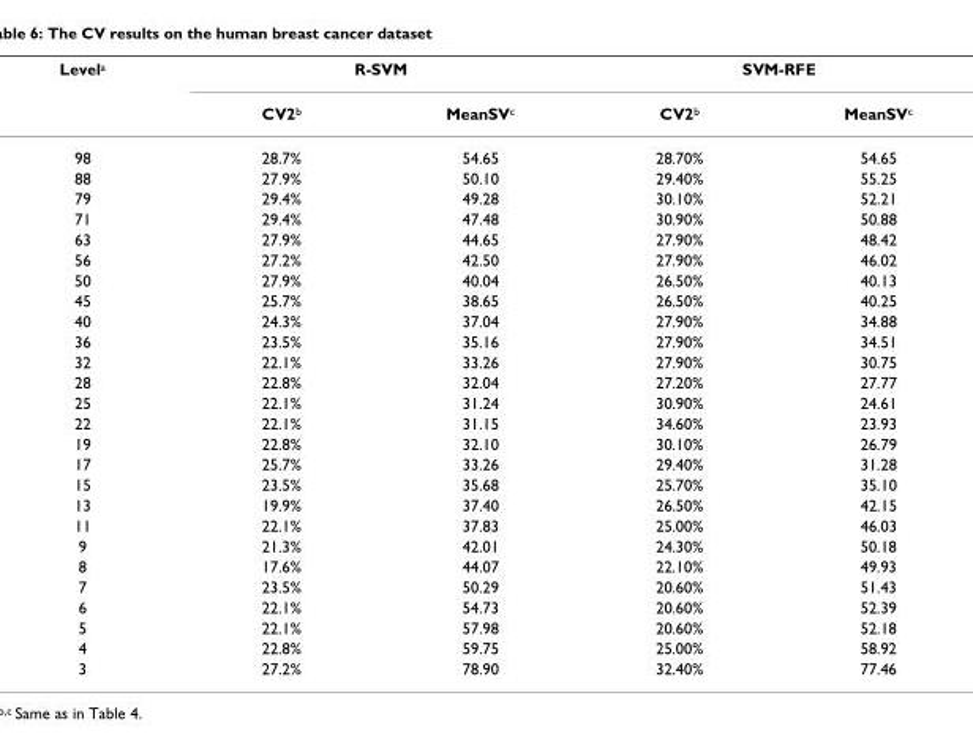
<table><thead><tr><td rowspan="2">Levela</td><td colspan="2">R-SVM</td><td colspan="2">SVM-RFE</td></tr><tr><td>CV2b</td><td>MeanSVc</td><td>CV2b</td><td>MeanSVc</td></tr></thead><tbody><tr><td>98</td><td>28.7%</td><td>54.65</td><td>28.70%</td><td>54.65</td></tr><tr><td>88</td><td>27.9%</td><td>50.10</td><td>29.40%</td><td>55.25</td></tr><tr><td>79</td><td>29.4%</td><td>49.28</td><td>30.10%</td><td>52.21</td></tr><tr><td>71</td><td>29.4%</td><td>47.48</td><td>30.90%</td><td>50.88</td></tr><tr><td>63</td><td>27.9%</td><td>44.65</td><td>27.90%</td><td>48.42</td></tr><tr><td>56</td><td>27.2%</td><td>42.50</td><td>27.90%</td><td>46.02</td></tr><tr><td>50</td><td>27.9%</td><td>40.04</td><td>26.50%</td><td>40.13</td></tr><tr><td>45</td><td>25.7%</td><td>38.65</td><td>26.50%</td><td>40.25</td></tr><tr><td>40</td><td>24.3%</td><td>37.04</td><td>27.90%</td><td>34.88</td></tr><tr><td>36</td><td>23.5%</td><td>35.16</td><td>27.90%</td><td>34.51</td></tr><tr><td>32</td><td>22.1%</td><td>33.26</td><td>27.90%</td><td>30.75</td></tr><tr><td>28</td><td>22.8%</td><td>32.04</td><td>27.20%</td><td>27.77</td></tr><tr><td>25</td><td>22.1%</td><td>31.24</td><td>30.90%</td><td>24.61</td></tr><tr><td>22</td><td>22.1%</td><td>31.15</td><td>34.60%</td><td>23.93</td></tr><tr><td>19</td><td>22.8%</td><td>32.10</td><td>30.10%</td><td>26.79</td></tr><tr><td>17</td><td>25.7%</td><td>33.26</td><td>29.40%</td><td>31.28</td></tr><tr><td>15</td><td>23.5%</td><td>35.68</td><td>25.70%</td><td>35.10</td></tr><tr><td>13</td><td>19.9%</td><td>37.40</td><td>26.50%</td><td>42.15</td></tr><tr><td>11</td><td>22.1%</td><td>37.83</td><td>25.00%</td><td>46.03</td></tr><tr><td>9</td><td>21.3%</td><td>42.01</td><td>24.30%</td><td>50.18</td></tr><tr><td>8</td><td>17.6%</td><td>44.07</td><td>22.10%</td><td>49.93</td></tr><tr><td>7</td><td>23.5%</td><td>50.29</td><td>20.60%</td><td>51.43</td></tr><tr><td>6</td><td>22.1%</td><td>54.73</td><td>20.60%</td><td>52.39</td></tr><tr><td>5</td><td>22.1%</td><td>57.98</td><td>20.60%</td><td>52.18</td></tr><tr><td>4</td><td>22.8%</td><td>59.75</td><td>25.00%</td><td>58.92</td></tr><tr><td>3</td><td>27.2%</td><td>78.90</td><td>32.40%</td><td>77.46</td></tr></tbody></table>